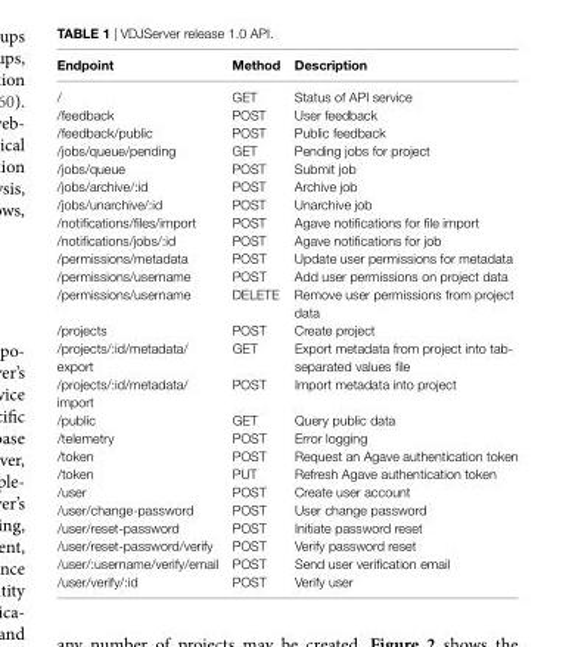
<table><thead><tr><td>endpoint</td><td>Method</td><td>Description</td></tr></thead><tbody><tr><td>/</td><td>GET</td><td>Status of API service</td></tr><tr><td>/feedback</td><td>POST</td><td>User feedback</td></tr><tr><td>/feedback/public</td><td>POST</td><td>Public feedback</td></tr><tr><td>/jobs/queue/pending</td><td>GET</td><td>Pending jobs for project</td></tr><tr><td>/jobs/queue</td><td>POST</td><td>Submit job</td></tr><tr><td>/jobs/archive/:id</td><td>POST</td><td>Archive job</td></tr><tr><td>/jobs/unarchive/:id</td><td>POST</td><td>Unarchive job</td></tr><tr><td>/notifications/files/import</td><td>POST</td><td>Agave notifications for file import</td></tr><tr><td>/notifications/jobs/:id</td><td>POST</td><td>Agave notifications for job</td></tr><tr><td>/permissions/metadata</td><td>POST</td><td>Update user permissions for metadata</td></tr><tr><td>/permissions/username</td><td>POST</td><td>Add user permissions on project data</td></tr><tr><td>/permissions/username</td><td>DELETE</td><td>Remove user permissions from project data</td></tr><tr><td>/projects</td><td>POST</td><td>Create project</td></tr><tr><td>/projects/:id/metadata/ export</td><td>GET</td><td>Export metadata from project into tab- separated values file</td></tr><tr><td>/projects/:id/metadata/ import</td><td>POST</td><td>Import metadata into project</td></tr><tr><td>/public</td><td>GET</td><td>Query public data</td></tr><tr><td>/telemetry</td><td>POST</td><td>Error logging</td></tr><tr><td>/token</td><td>POST</td><td>Request an Agave authentication token</td></tr><tr><td>/token</td><td>PUT</td><td>Refresh Agave authentication token</td></tr><tr><td>/user</td><td>POST</td><td>Create user account</td></tr><tr><td>/user/change-password</td><td>POST</td><td>User change password</td></tr><tr><td>/user/reset-password</td><td>POST</td><td>Initiate password reset</td></tr><tr><td>/user/reset-password/verify</td><td>POST</td><td>Verify password reset</td></tr><tr><td>/user/:username/verify/email</td><td>POST</td><td>Send user verification email</td></tr><tr><td>/user/verify/:id</td><td>POST</td><td>Verify user</td></tr></tbody></table>